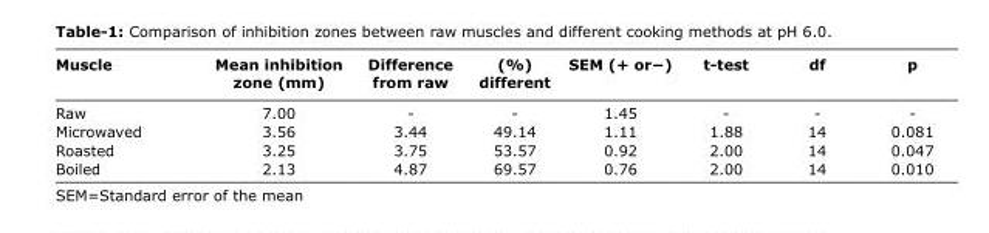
<table><thead><tr><td>Muscle</td><td>Mean inhibition zone (mm)</td><td>Difference from raw</td><td>(%) different</td><td>SEM (+ or−)</td><td>t-test</td><td>df</td><td>p</td></tr></thead><tbody><tr><td>Raw</td><td>7.00</td><td>-</td><td>-</td><td>1.45</td><td>-</td><td>-</td><td>-</td></tr><tr><td>Microwaved</td><td>3.56</td><td>3.44</td><td>49.14</td><td>1.11</td><td>1.88</td><td>14</td><td>0.081</td></tr><tr><td>Roasted</td><td>3.25</td><td>3.75</td><td>53.57</td><td>0.92</td><td>2.00</td><td>14</td><td>0.047</td></tr><tr><td>Boiled</td><td>2.13</td><td>4.87</td><td>69.57</td><td>0.76</td><td>2.00</td><td>14</td><td>0.010</td></tr></tbody></table>